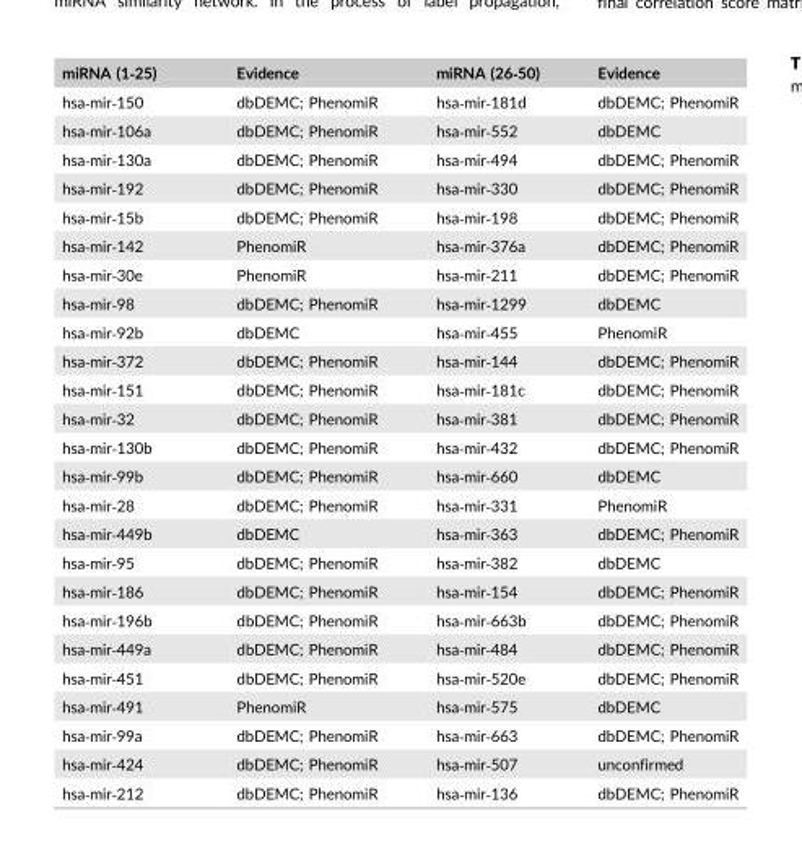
<table><thead><tr><td>miRNA (1‐25)</td><td>Evidence</td><td>miRNA (26‐50)</td><td>Evidence</td></tr></thead><tbody><tr><td>hsa‐mir‐150</td><td>dbDEMC; PhenomiR</td><td>hsa‐mir‐181d</td><td>dbDEMC; PhenomiR</td></tr><tr><td>hsa‐mir‐106a</td><td>dbDEMC; PhenomiR</td><td>hsa‐mir‐552</td><td>dbDEMC</td></tr><tr><td>hsa‐mir‐130a</td><td>dbDEMC; PhenomiR</td><td>hsa‐mir‐494</td><td>dbDEMC; PhenomiR</td></tr><tr><td>hsa‐mir‐192</td><td>dbDEMC; PhenomiR</td><td>hsa‐mir‐330</td><td>dbDEMC; PhenomiR</td></tr><tr><td>hsa‐mir‐15b</td><td>dbDEMC; PhenomiR</td><td>hsa‐mir‐198</td><td>dbDEMC; PhenomiR</td></tr><tr><td>hsa‐mir‐142</td><td>PhenomiR</td><td>hsa‐mir‐376a</td><td>dbDEMC; PhenomiR</td></tr><tr><td>hsa‐mir‐30e</td><td>PhenomiR</td><td>hsa‐mir‐211</td><td>dbDEMC; PhenomiR</td></tr><tr><td>hsa‐mir‐98</td><td>dbDEMC; PhenomiR</td><td>hsa‐mir‐1299</td><td>dbDEMC</td></tr><tr><td>hsa‐mir‐92b</td><td>dbDEMC</td><td>hsa‐mir‐455</td><td>PhenomiR</td></tr><tr><td>hsa‐mir‐372</td><td>dbDEMC; PhenomiR</td><td>hsa‐mir‐144</td><td>dbDEMC; PhenomiR</td></tr><tr><td>hsa‐mir‐151</td><td>dbDEMC; PhenomiR</td><td>hsa‐mir‐181c</td><td>dbDEMC; PhenomiR</td></tr><tr><td>hsa‐mir‐32</td><td>dbDEMC; PhenomiR</td><td>hsa‐mir‐381</td><td>dbDEMC; PhenomiR</td></tr><tr><td>hsa‐mir‐130b</td><td>dbDEMC; PhenomiR</td><td>hsa‐mir‐432</td><td>dbDEMC; PhenomiR</td></tr><tr><td>hsa‐mir‐99b</td><td>dbDEMC; PhenomiR</td><td>hsa‐mir‐660</td><td>dbDEMC</td></tr><tr><td>hsa‐mir‐28</td><td>dbDEMC; PhenomiR</td><td>hsa‐mir‐331</td><td>PhenomiR</td></tr><tr><td>hsa‐mir‐449b</td><td>dbDEMC</td><td>hsa‐mir‐363</td><td>dbDEMC; PhenomiR</td></tr><tr><td>hsa‐mir‐95</td><td>dbDEMC; PhenomiR</td><td>hsa‐mir‐382</td><td>dbDEMC</td></tr><tr><td>hsa‐mir‐186</td><td>dbDEMC; PhenomiR</td><td>hsa‐mir‐154</td><td>dbDEMC; PhenomiR</td></tr><tr><td>hsa‐mir‐196b</td><td>dbDEMC; PhenomiR</td><td>hsa‐mir‐663b</td><td>dbDEMC; PhenomiR</td></tr><tr><td>hsa‐mir‐449a</td><td>dbDEMC; PhenomiR</td><td>hsa‐mir‐484</td><td>dbDEMC; PhenomiR</td></tr><tr><td>hsa‐mir‐451</td><td>dbDEMC; PhenomiR</td><td>hsa‐mir‐520e</td><td>dbDEMC; PhenomiR</td></tr><tr><td>hsa‐mir‐491</td><td>PhenomiR</td><td>hsa‐mir‐575</td><td>dbDEMC</td></tr><tr><td>hsa‐mir‐99a</td><td>dbDEMC; PhenomiR</td><td>hsa‐mir‐663</td><td>dbDEMC; PhenomiR</td></tr><tr><td>hsa‐mir‐424</td><td>dbDEMC; PhenomiR</td><td>hsa‐mir‐507</td><td>unconfirmed</td></tr><tr><td>hsa‐mir‐212</td><td>dbDEMC; PhenomiR</td><td>hsa‐mir‐136</td><td>dbDEMC; PhenomiR</td></tr></tbody></table>